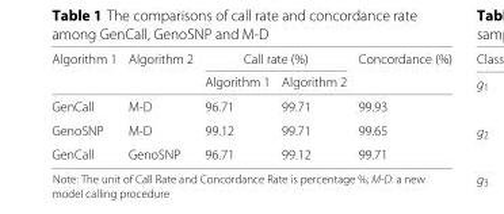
<table><thead><tr><td rowspan="2">Algorithm 1</td><td rowspan="2">Algorithm 2</td><td colspan="2">Call rate (%)</td><td rowspan="2">Concordance (%)</td></tr><tr><td>Algorithm 1</td><td>Algorithm 2</td></tr></thead><tbody><tr><td>GenCall</td><td>M-D</td><td>96.71</td><td>99.71</td><td>99.93</td></tr><tr><td>GenoSNP</td><td>M-D</td><td>99.12</td><td>99.71</td><td>99.65</td></tr><tr><td>GenCall</td><td>GenoSNP</td><td>96.71</td><td>99.12</td><td>99.71</td></tr></tbody></table>